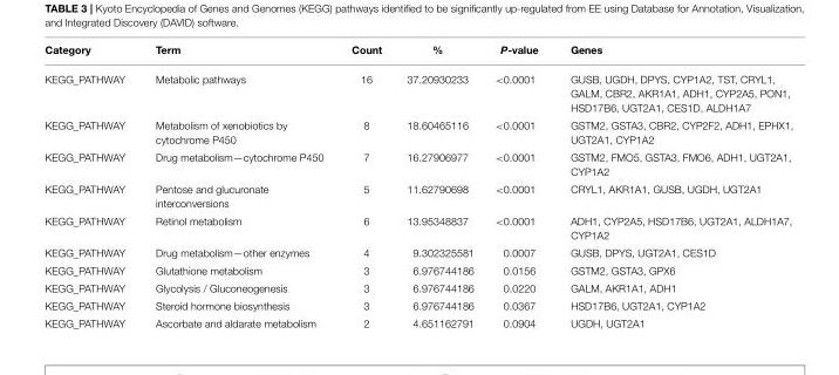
<table><thead><tr><td>Category</td><td>Term</td><td>Count</td><td>%</td><td>P-value</td><td>Genes</td></tr></thead><tbody><tr><td>KEGG_PATHWAY</td><td>Metabolic pathways</td><td>16</td><td>37.20930233</td><td>&lt;0.0001</td><td>GUSB, UGDH, DPYS, CYP1A2, TST, CRYL1, GALM, CBR2, AKR1A1, ADH1, CYP2A5, PON1, HSD17B6, UGT2A1, CES1D, ALDH1A7</td></tr><tr><td>KEGG_PATHWAY</td><td>Metabolism of xenobiotics by cytochrome P450</td><td>8</td><td>18.60465116</td><td>&lt;0.0001</td><td>GSTM2, GSTA3, CBR2, CYP2F2, ADH1, EPHX1, UGT2A1, CYP1A2</td></tr><tr><td>KEGG_PATHWAY</td><td>Drug metabolism—cytochrome P450</td><td>7</td><td>16.27906977</td><td>&lt;0.0001</td><td>GSTM2, FMO5, GSTA3, FMO6, ADH1, UGT2A1, CYP1A2</td></tr><tr><td>KEGG_PATHWAY</td><td>Pentose and glucuronate interconversions</td><td>5</td><td>11.62790698</td><td>&lt;0.0001</td><td>CRYL1, AKR1A1, GUSB, UGDH, UGT2A1</td></tr><tr><td>KEGG_PATHWAY</td><td>Retinol metabolism</td><td>6</td><td>13.95348837</td><td>&lt;0.0001</td><td>ADH1, CYP2A5, HSD17B6, UGT2A1, ALDH1A7, CYP1A2</td></tr><tr><td>KEGG_PATHWAY</td><td>Drug metabolism—other enzymes</td><td>4</td><td>9.302325581</td><td>0.0007</td><td>GUSB, DPYS, UGT2A1, CES1D</td></tr><tr><td>KEGG_PATHWAY</td><td>Glutathione metabolism</td><td>3</td><td>6.976744186</td><td>0.0156</td><td>GSTM2, GSTA3, GPX6</td></tr><tr><td>KEGG_PATHWAY</td><td>Glycolysis / Gluconeogenesis</td><td>3</td><td>6.976744186</td><td>0.0220</td><td>GALM, AKR1A1, ADH1</td></tr><tr><td>KEGG_PATHWAY</td><td>Steroid hormone biosynthesis</td><td>3</td><td>6.976744186</td><td>0.0367</td><td>HSD17B6, UGT2A1, CYP1A2</td></tr><tr><td>KEGG_PATHWAY</td><td>Ascorbate and aldarate metabolism</td><td>2</td><td>4.651162791</td><td>0.0904</td><td>UGDH, UGT2A1</td></tr></tbody></table>